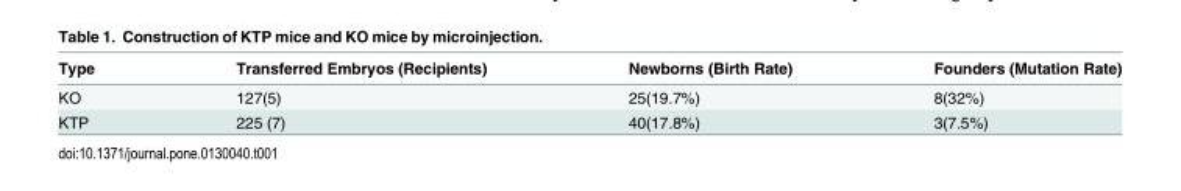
<table><thead><tr><td>Type</td><td>Transferred Embryos (Recipients)</td><td>Newborns (Birth Rate)</td><td>Founders (Mutation Rate)</td></tr></thead><tbody><tr><td>KO</td><td>127(5)</td><td>25(19.7%)</td><td>8(32%)</td></tr><tr><td>KTP</td><td>225 (7)</td><td>40(17.8%)</td><td>3(7.5%)</td></tr></tbody></table>